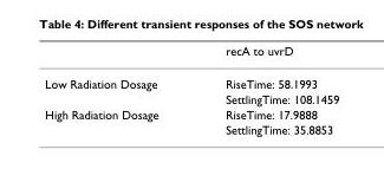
<table><thead><tr><td></td><td>recA to uvrD</td></tr></thead><tbody><tr><td rowspan="2">Low Radiation Dosage</td><td>RiseTime: 58.1993</td></tr><tr><td>SettlingTime: 108.1459</td></tr><tr><td rowspan="2">High Radiation Dosage</td><td>RiseTime: 17.9888</td></tr><tr><td>SettlingTime: 35.8853</td></tr></tbody></table>